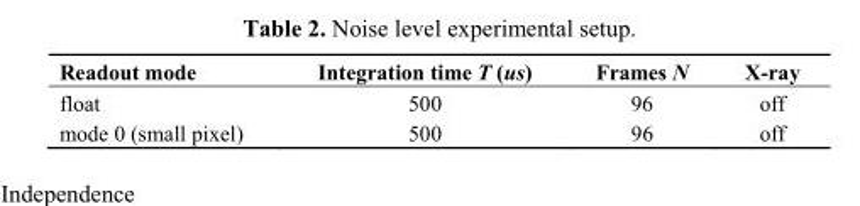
<table><thead><tr><td>Readout mode</td><td>Integration time T (us)</td><td>Frames N</td><td>X-ray</td></tr></thead><tbody><tr><td>float</td><td>500</td><td>96</td><td>off</td></tr><tr><td>mode 0 (small pixel)</td><td>500</td><td>96</td><td>off</td></tr></tbody></table>